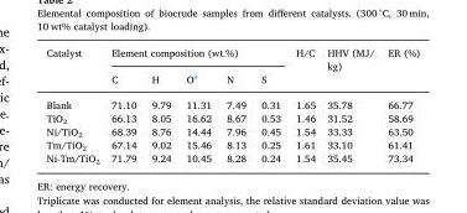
<table><thead><tr><td rowspan="2">Catalyst</td><td colspan="5">Element composition (wt.%)</td><td rowspan="2">H/C</td><td rowspan="2">HHV (MJ/ kg)</td><td rowspan="2">ER (%)</td></tr><tr><td>C</td><td>H</td><td>O<sup>a</sup></td><td>N</td><td>S</td></tr></thead><tbody><tr><td>Blank</td><td>71.10</td><td>9.79</td><td>11.31</td><td>7.49</td><td>0.31</td><td>1.65</td><td>35.78</td><td>66.77</td></tr><tr><td>TiO<sub>2</sub></td><td>66.13</td><td>8.05</td><td>16.62</td><td>8.67</td><td>0.53</td><td>1.46</td><td>31.52</td><td>58.69</td></tr><tr><td>Ni/TiO<sub>2</sub></td><td>68.39</td><td>8.76</td><td>14.44</td><td>7.96</td><td>0.45</td><td>1.54</td><td>33.33</td><td>63.50</td></tr><tr><td>Tm/TiO<sub>2</sub></td><td>67.14</td><td>9.02</td><td>15.46</td><td>8.13</td><td>0.25</td><td>1.61</td><td>33.10</td><td>61.41</td></tr><tr><td>Ni-Tm/TiO<sub>2</sub></td><td>71.79</td><td>9.24</td><td>10.45</td><td>8.28</td><td>0.24</td><td>1.54</td><td>35.45</td><td>73.34</td></tr></tbody></table>